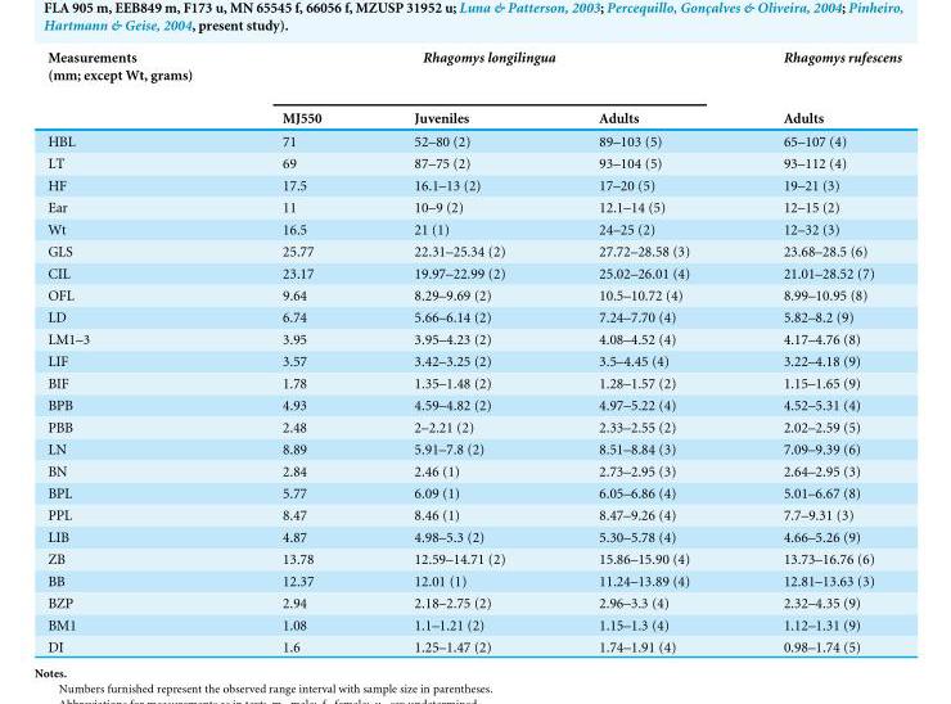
<table><thead><tr><td rowspan="2">Measurements (mm; except Wt, grams)</td><td colspan="3">Rhagomys longilingua</td><td rowspan="2">Rhagomys rufescens Adults</td></tr><tr><td>MJ550</td><td>Juveniles</td><td>Adults</td></tr></thead><tbody><tr><td>HBL</td><td>71</td><td>52–80 (2)</td><td>89–103 (5)</td><td>65–107 (4)</td></tr><tr><td>LT</td><td>69</td><td>87–75 (2)</td><td>93–104 (5)</td><td>93–112 (4)</td></tr><tr><td>HF</td><td>17.5</td><td>16.1–13 (2)</td><td>17–20 (5)</td><td>19–21 (3)</td></tr><tr><td>Ear</td><td>11</td><td>10–9 (2)</td><td>12.1–14 (5)</td><td>12–15 (2)</td></tr><tr><td>Wt</td><td>16.5</td><td>21 (1)</td><td>24–25 (2)</td><td>12–32 (3)</td></tr><tr><td>GLS</td><td>25.77</td><td>22.31–25.34 (2)</td><td>27.72–28.58 (3)</td><td>23.68–28.5 (6)</td></tr><tr><td>CIL</td><td>23.17</td><td>19.97–22.99 (2)</td><td>25.02–26.01 (4)</td><td>21.01–28.52 (7)</td></tr><tr><td>OFL</td><td>9.64</td><td>8.29–9.69 (2)</td><td>10.5–10.72 (4)</td><td>8.99–10.95 (8)</td></tr><tr><td>LD</td><td>6.74</td><td>5.66–6.14 (2)</td><td>7.24–7.70 (4)</td><td>5.82–8.2 (9)</td></tr><tr><td>LM1–3</td><td>3.95</td><td>3.95–4.23 (2)</td><td>4.08–4.52 (4)</td><td>4.17–4.76 (8)</td></tr><tr><td>LIF</td><td>3.57</td><td>3.42–3.25 (2)</td><td>3.5–4.45 (4)</td><td>3.22–4.18 (9)</td></tr><tr><td>BIF</td><td>1.78</td><td>1.35–1.48 (2)</td><td>1.28–1.57 (2)</td><td>1.15–1.65 (9)</td></tr><tr><td>BPB</td><td>4.93</td><td>4.59–4.82 (2)</td><td>4.97–5.22 (4)</td><td>4.52–5.31 (4)</td></tr><tr><td>PBB</td><td>2.48</td><td>2–2.21 (2)</td><td>2.33–2.55 (2)</td><td>2.02–2.59 (5)</td></tr><tr><td>LN</td><td>8.89</td><td>5.91–7.8 (2)</td><td>8.51–8.84 (3)</td><td>7.09–9.39 (6)</td></tr><tr><td>BN</td><td>2.84</td><td>2.46 (1)</td><td>2.73–2.95 (3)</td><td>2.64–2.95 (3)</td></tr><tr><td>BPL</td><td>5.77</td><td>6.09 (1)</td><td>6.05–6.86 (4)</td><td>5.01–6.67 (8)</td></tr><tr><td>PPL</td><td>8.47</td><td>8.46 (1)</td><td>8.47–9.26 (4)</td><td>7.7–9.31 (3)</td></tr><tr><td>LIB</td><td>4.87</td><td>4.98–5.3 (2)</td><td>5.30–5.78 (4)</td><td>4.66–5.26 (9)</td></tr><tr><td>ZB</td><td>13.78</td><td>12.59–14.71 (2)</td><td>15.86–15.90 (4)</td><td>13.73–16.76 (6)</td></tr><tr><td>BB</td><td>12.37</td><td>12.01 (1)</td><td>11.24–13.89 (4)</td><td>12.81–13.63 (3)</td></tr><tr><td>BZP</td><td>2.94</td><td>2.18–2.75 (2)</td><td>2.96–3.3 (4)</td><td>2.32–4.35 (9)</td></tr><tr><td>BM1</td><td>1.08</td><td>1.1–1.21 (2)</td><td>1.15–1.3 (4)</td><td>1.12–1.31 (9)</td></tr><tr><td>DI</td><td>1.6</td><td>1.25–1.47 (2)</td><td>1.74–1.91 (4)</td><td>0.98–1.74 (5)</td></tr></tbody></table>